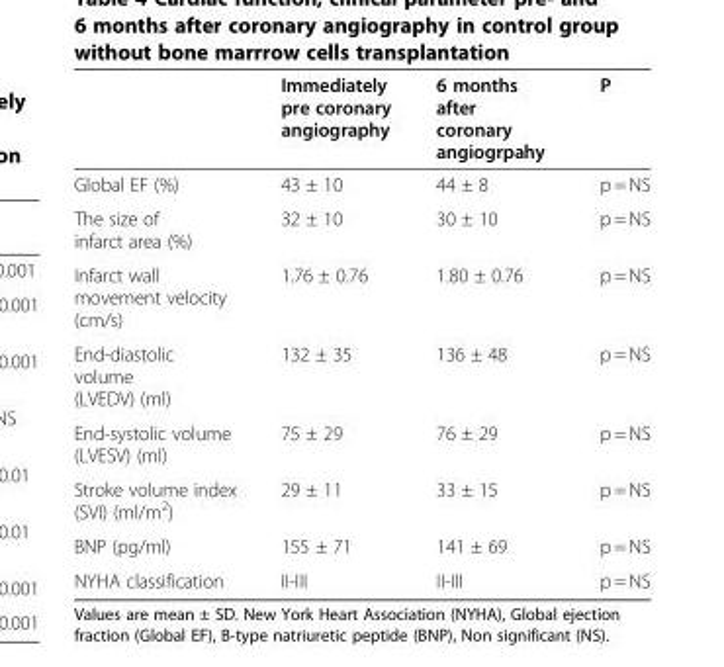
<table><thead><tr><td></td><td>Immediately pre coronary angiography</td><td>6 months after coronary angiogrpahy</td><td>P</td></tr></thead><tbody><tr><td>Global EF (%)</td><td>43 ± 10</td><td>44 ± 8</td><td>p = NS</td></tr><tr><td>The size of infarct area (%)</td><td>32 ± 10</td><td>30 ± 10</td><td>p = NS</td></tr><tr><td>Infarct wall movement velocity (cm/s)</td><td>1.76 ± 0.76</td><td>1.80 ± 0.76</td><td>p = NS</td></tr><tr><td>End-diastolic volume (LVEDV) (ml)</td><td>132 ± 35</td><td>136 ± 48</td><td>p = NS</td></tr><tr><td>End-systolic volume (LVESV) (ml)</td><td>75 ± 29</td><td>76 ± 29</td><td>p = NS</td></tr><tr><td>Stroke volume index (SVI) (ml/m<sup>2</sup>)</td><td>29 ± 11</td><td>33 ± 15</td><td>p = NS</td></tr><tr><td>BNP (pg/ml)</td><td>155 ± 71</td><td>141 ± 69</td><td>p = NS</td></tr><tr><td>NYHA classification</td><td>II-III</td><td>II-III</td><td>p = NS</td></tr></tbody></table>